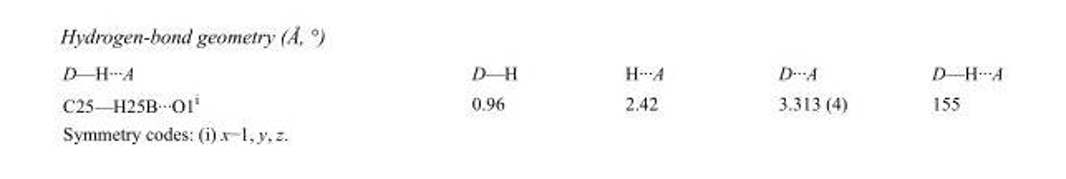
<table><tbody><tr><td>D—H···A</td><td>D—H</td><td>H···A</td><td>D···A</td><td>D—H···A</td></tr><tr><td>C25—H25B···O1<sup>i</sup></td><td>0.96</td><td>2.42</td><td>3.313 (4)</td><td>155</td></tr></tbody></table>